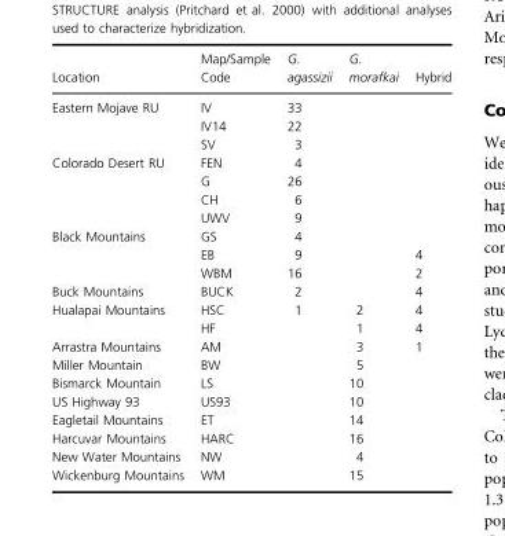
<table><thead><tr><td>Location</td><td>Map/Sample Code</td><td>G. agassizii</td><td>G. morafkai</td><td>Hybrid</td></tr></thead><tbody><tr><td rowspan="3">Eastern Mojave RU</td><td>IV</td><td>33</td><td></td><td></td></tr><tr><td>IV14</td><td>22</td><td></td><td></td></tr><tr><td>SV</td><td>3</td><td></td><td></td></tr><tr><td rowspan="4">Colorado Desert RU</td><td>FEN</td><td>4</td><td></td><td></td></tr><tr><td>G</td><td>26</td><td></td><td></td></tr><tr><td>CH</td><td>6</td><td></td><td></td></tr><tr><td>UWV</td><td>9</td><td></td><td></td></tr><tr><td rowspan="3">Black Mountains</td><td>GS</td><td>4</td><td></td><td></td></tr><tr><td>EB</td><td>9</td><td></td><td>4</td></tr><tr><td>WBM</td><td>16</td><td></td><td>2</td></tr><tr><td>Buck Mountains</td><td>BUCK</td><td>2</td><td></td><td>4</td></tr><tr><td rowspan="2">Hualapai Mountains</td><td>HSC</td><td>1</td><td>2</td><td>4</td></tr><tr><td>HF</td><td></td><td>1</td><td>4</td></tr><tr><td>Arrastra Mountains</td><td>AM</td><td></td><td>3</td><td>1</td></tr><tr><td>Miller Mountain</td><td>BW</td><td></td><td>5</td><td></td></tr><tr><td>Bismarck Mountain</td><td>LS</td><td></td><td>10</td><td></td></tr><tr><td>US Highway 93</td><td>US93</td><td></td><td>10</td><td></td></tr><tr><td>Eagletail Mountains</td><td>ET</td><td></td><td>14</td><td></td></tr><tr><td>Harcuvar Mountains</td><td>HARC</td><td></td><td>16</td><td></td></tr><tr><td>New Water Mountains</td><td>NW</td><td></td><td>4</td><td></td></tr><tr><td>Wickenburg Mountains</td><td>WM</td><td></td><td>15</td><td></td></tr></tbody></table>